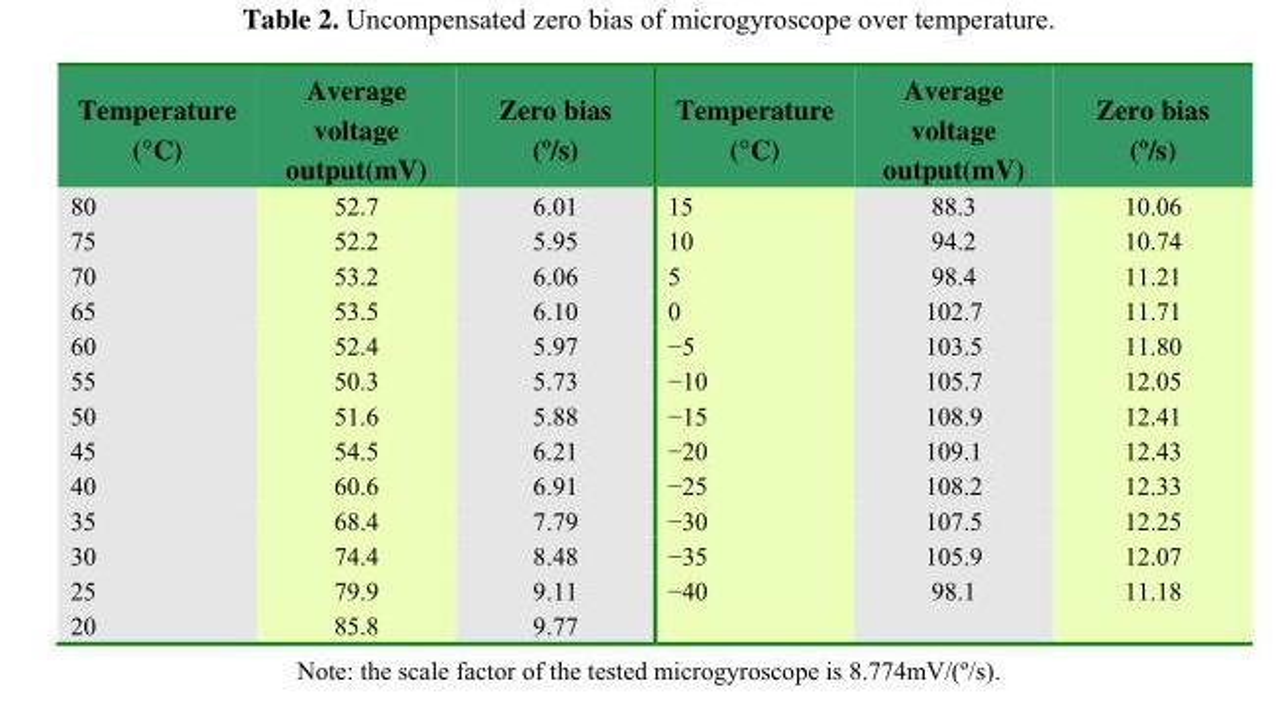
<table><thead><tr><td>Temperature (°C)</td><td>Average voltage output(mV)</td><td>Zero bias (º/s)</td><td>Temperature (°C)</td><td>Average voltage output(mV)</td><td>Zero bias (º/s)</td></tr></thead><tbody><tr><td>80</td><td>52.7</td><td>6.01</td><td>15</td><td>88.3</td><td>10.06</td></tr><tr><td>75</td><td>52.2</td><td>5.95</td><td>10</td><td>94.2</td><td>10.74</td></tr><tr><td>70</td><td>53.2</td><td>6.06</td><td>5</td><td>98.4</td><td>11.21</td></tr><tr><td>65</td><td>53.5</td><td>6.10</td><td>0</td><td>102.7</td><td>11.71</td></tr><tr><td>60</td><td>52.4</td><td>5.97</td><td>−5</td><td>103.5</td><td>11.80</td></tr><tr><td>55</td><td>50.3</td><td>5.73</td><td>−10</td><td>105.7</td><td>12.05</td></tr><tr><td>50</td><td>51.6</td><td>5.88</td><td>−15</td><td>108.9</td><td>12.41</td></tr><tr><td>45</td><td>54.5</td><td>6.21</td><td>−20</td><td>109.1</td><td>12.43</td></tr><tr><td>40</td><td>60.6</td><td>6.91</td><td>−25</td><td>108.2</td><td>12.33</td></tr><tr><td>35</td><td>68.4</td><td>7.79</td><td>−30</td><td>107.5</td><td>12.25</td></tr><tr><td>30</td><td>74.4</td><td>8.48</td><td>−35</td><td>105.9</td><td>12.07</td></tr><tr><td>25</td><td>79.9</td><td>9.11</td><td>−40</td><td>98.1</td><td>11.18</td></tr><tr><td>20</td><td>85.8</td><td>9.77</td><td></td><td></td><td></td></tr></tbody></table>